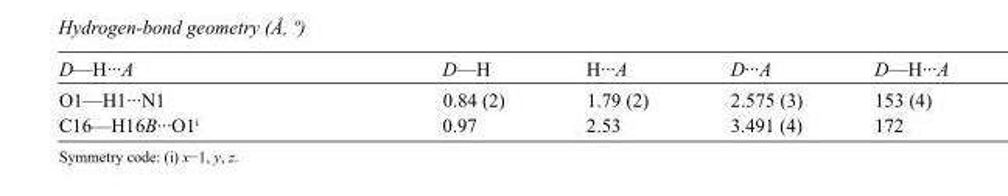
<table><tbody><tr><td>D—H···A</td><td>D—H</td><td>H···A</td><td>D···A</td><td>D—H···A</td></tr><tr><td>O1—H1···N1</td><td>0.84 (2)</td><td>1.79 (2)</td><td>2.575 (3)</td><td>153 (4)</td></tr><tr><td>C16—H16B···O1<sup>i</sup></td><td>0.97</td><td>2.53</td><td>3.491 (4)</td><td>172</td></tr></tbody></table>